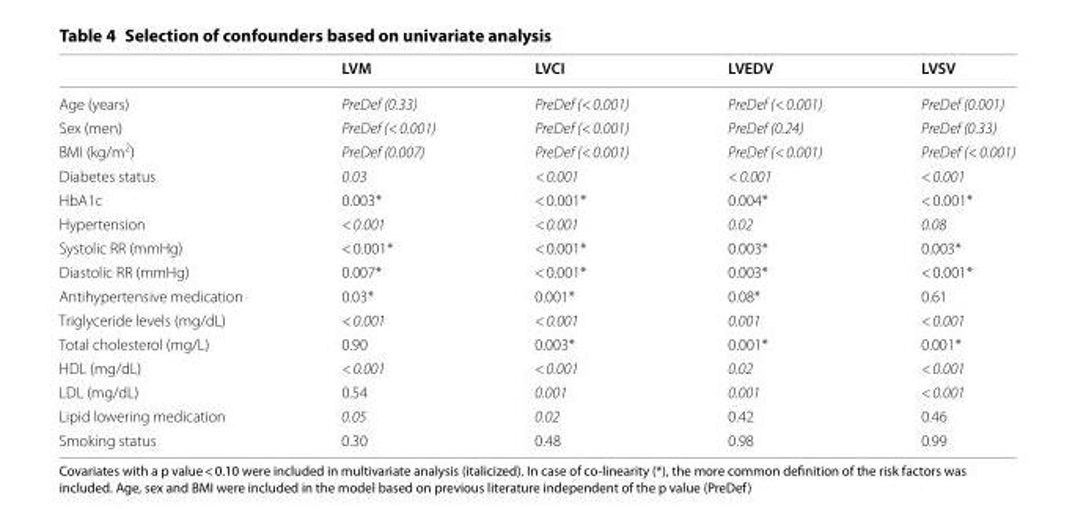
<table><thead><tr><td></td><td>LVM</td><td>LVCI</td><td>LVEDV</td><td>LVSV</td></tr></thead><tbody><tr><td>Age (years)</td><td>PreDef (0.33)</td><td>PreDef (&lt; 0.001)</td><td>PreDef (&lt; 0.001)</td><td>PreDef (0.001)</td></tr><tr><td>Sex (men)</td><td>PreDef (&lt; 0.001)</td><td>PreDef (&lt; 0.001)</td><td>PreDef (0.24)</td><td>PreDef (0.33)</td></tr><tr><td>BMI (kg/m<sup>2</sup>)</td><td>PreDef (0.007)</td><td>PreDef (&lt; 0.001)</td><td>PreDef (&lt; 0.001)</td><td>PreDef (&lt; 0.001)</td></tr><tr><td>Diabetes status</td><td>0.03</td><td>&lt; 0.001</td><td>&lt; 0.001</td><td>&lt; 0.001</td></tr><tr><td>HbA1c</td><td>0.003*</td><td>&lt; 0.001*</td><td>0.004*</td><td>&lt; 0.001*</td></tr><tr><td>Hypertension</td><td>&lt; 0.001</td><td>&lt; 0.001</td><td>0.02</td><td>0.08</td></tr><tr><td>Systolic RR (mmHg)</td><td>&lt; 0.001*</td><td>&lt; 0.001*</td><td>0.003*</td><td>0.003*</td></tr><tr><td>Diastolic RR (mmHg)</td><td>0.007*</td><td>&lt; 0.001*</td><td>0.003*</td><td>&lt; 0.001*</td></tr><tr><td>Antihypertensive medication</td><td>0.03*</td><td>0.001*</td><td>0.08*</td><td>0.61</td></tr><tr><td>Triglyceride levels (mg/dL)</td><td>&lt; 0.001</td><td>&lt; 0.001</td><td>0.001</td><td>&lt; 0.001</td></tr><tr><td>Total cholesterol (mg/L)</td><td>0.90</td><td>0.003*</td><td>0.001*</td><td>0.001*</td></tr><tr><td>HDL (mg/dL)</td><td>&lt; 0.001</td><td>&lt; 0.001</td><td>0.02</td><td>&lt; 0.001</td></tr><tr><td>LDL (mg/dL)</td><td>0.54</td><td>0.001</td><td>0.001</td><td>&lt; 0.001</td></tr><tr><td>Lipid lowering medication</td><td>0.05</td><td>0.02</td><td>0.42</td><td>0.46</td></tr><tr><td>Smoking status</td><td>0.30</td><td>0.48</td><td>0.98</td><td>0.99</td></tr></tbody></table>